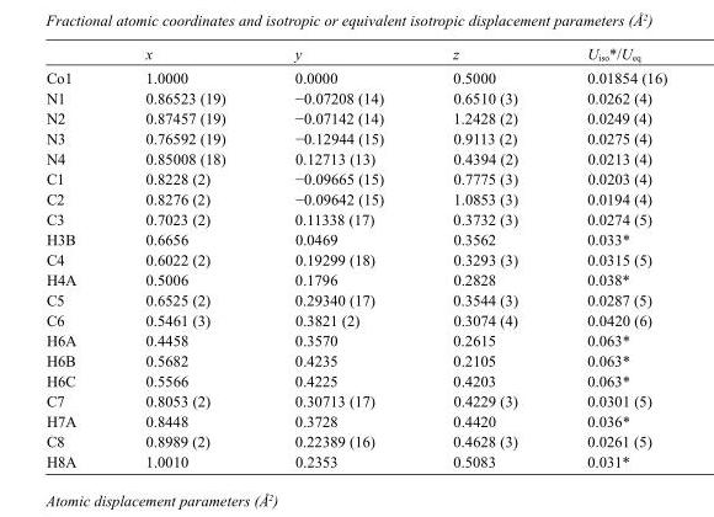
<table><thead><tr><td></td><td>x</td><td>y</td><td>z</td><td>U<sub>iso</sub>*/U<sub>eq</sub></td></tr></thead><tbody><tr><td>Co1</td><td>1.0000</td><td>0.0000</td><td>0.5000</td><td>0.01854 (16)</td></tr><tr><td>N1</td><td>0.86523 (19)</td><td>−0.07208 (14)</td><td>0.6510 (3)</td><td>0.0262 (4)</td></tr><tr><td>N2</td><td>0.87457 (19)</td><td>−0.07142 (14)</td><td>1.2428 (2)</td><td>0.0249 (4)</td></tr><tr><td>N3</td><td>0.76592 (19)</td><td>−0.12944 (15)</td><td>0.9113 (2)</td><td>0.0275 (4)</td></tr><tr><td>N4</td><td>0.85008 (18)</td><td>0.12713 (13)</td><td>0.4394 (2)</td><td>0.0213 (4)</td></tr><tr><td>C1</td><td>0.8228 (2)</td><td>−0.09665 (15)</td><td>0.7775 (3)</td><td>0.0203 (4)</td></tr><tr><td>C2</td><td>0.8276 (2)</td><td>−0.09642 (15)</td><td>1.0853 (3)</td><td>0.0194 (4)</td></tr><tr><td>C3</td><td>0.7023 (2)</td><td>0.11338 (17)</td><td>0.3732 (3)</td><td>0.0274 (5)</td></tr><tr><td>H3B</td><td>0.6656</td><td>0.0469</td><td>0.3562</td><td>0.033*</td></tr><tr><td>C4</td><td>0.6022 (2)</td><td>0.19299 (18)</td><td>0.3293 (3)</td><td>0.0315 (5)</td></tr><tr><td>H4A</td><td>0.5006</td><td>0.1796</td><td>0.2828</td><td>0.038*</td></tr><tr><td>C5</td><td>0.6525 (2)</td><td>0.29340 (17)</td><td>0.3544 (3)</td><td>0.0287 (5)</td></tr><tr><td>C6</td><td>0.5461 (3)</td><td>0.3821 (2)</td><td>0.3074 (4)</td><td>0.0420 (6)</td></tr><tr><td>H6A</td><td>0.4458</td><td>0.3570</td><td>0.2615</td><td>0.063*</td></tr><tr><td>H6B</td><td>0.5682</td><td>0.4235</td><td>0.2105</td><td>0.063*</td></tr><tr><td>H6C</td><td>0.5566</td><td>0.4225</td><td>0.4203</td><td>0.063*</td></tr><tr><td>C7</td><td>0.8053 (2)</td><td>0.30713 (17)</td><td>0.4229 (3)</td><td>0.0301 (5)</td></tr><tr><td>H7A</td><td>0.8448</td><td>0.3728</td><td>0.4420</td><td>0.036*</td></tr><tr><td>C8</td><td>0.8989 (2)</td><td>0.22389 (16)</td><td>0.4628 (3)</td><td>0.0261 (5)</td></tr><tr><td>H8A</td><td>1.0010</td><td>0.2353</td><td>0.5083</td><td>0.031*</td></tr></tbody></table>